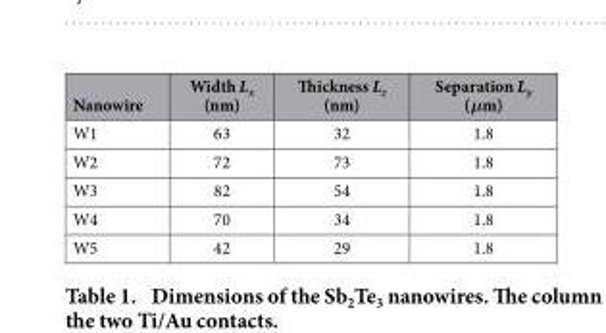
<table><thead><tr><td>Nanowire</td><td>Width L<sub>x</sub> (nm)</td><td>Thickness L<sub>z</sub> (nm)</td><td>Separation L<sub>y</sub> (μm)</td></tr></thead><tbody><tr><td>W1</td><td>63</td><td>32</td><td>1.8</td></tr><tr><td>W2</td><td>72</td><td>73</td><td>1.8</td></tr><tr><td>W3</td><td>82</td><td>54</td><td>1.8</td></tr><tr><td>W4</td><td>70</td><td>34</td><td>1.8</td></tr><tr><td>W5</td><td>42</td><td>29</td><td>1.8</td></tr></tbody></table>